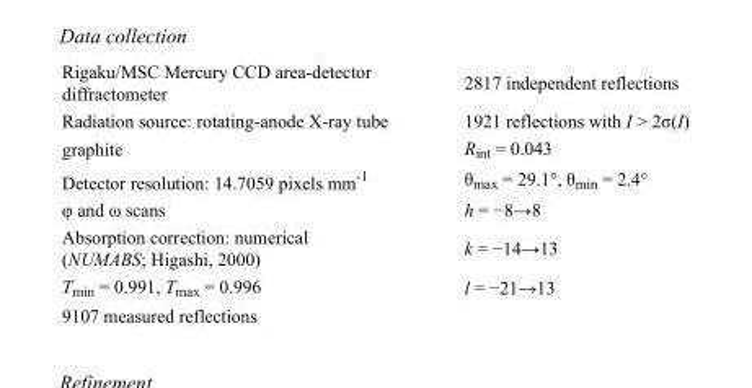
<table><tbody><tr><td>Rigaku/MSC Mercury CCD area-detector diffractometer</td><td>2817 independent reflections</td></tr><tr><td>Radiation source: rotating-anode X-ray tube</td><td>1921 reflections with I &gt; 2σ(I)</td></tr><tr><td>graphite</td><td>R<sub>int</sub> = 0.043</td></tr><tr><td>Detector resolution: 14.7059 pixels mm<sup>-1</sup></td><td>θ<sub>max</sub> = 29.1°, θ<sub>min</sub> = 2.4°</td></tr><tr><td>φ and ω scans</td><td>h = −8→8</td></tr><tr><td>Absorption correction: numerical (NUMABS; Higashi, 2000)</td><td>k = −14→13</td></tr><tr><td>T<sub>min</sub> = 0.991, T<sub>max</sub> = 0.996</td><td>l = −21→13</td></tr><tr><td>9107 measured reflections</td><td></td></tr></tbody></table>